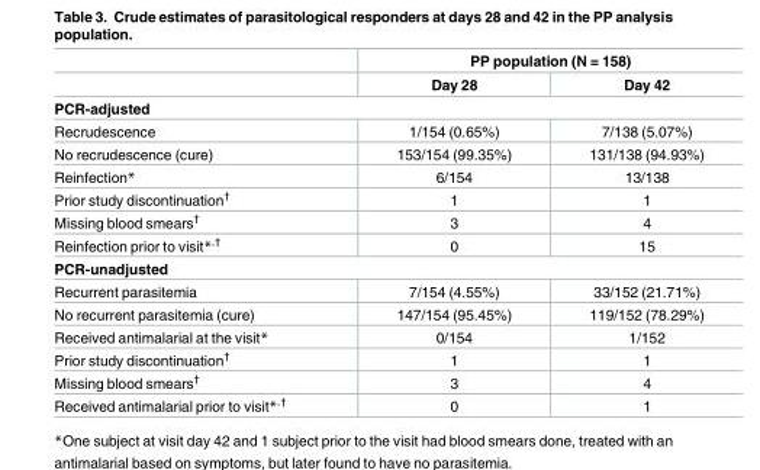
<table><thead><tr><td rowspan="2"></td><td colspan="2">PP population (N = 158)</td></tr><tr><td>Day 28</td><td>Day 42</td></tr></thead><tbody><tr><td colspan="3">PCR-adjusted</td></tr><tr><td>Recrudescence</td><td>1/154 (0.65%)</td><td>7/138 (5.07%)</td></tr><tr><td>No recrudescence (cure)</td><td>153/154 (99.35%)</td><td>131/138 (94.93%)</td></tr><tr><td>Reinfection*</td><td>6/154</td><td>13/138</td></tr><tr><td>Prior study discontinuation<sup>†</sup></td><td>1</td><td>1</td></tr><tr><td>Missing blood smears<sup>†</sup></td><td>3</td><td>4</td></tr><tr><td>Reinfection prior to visit*<sup>,†</sup></td><td>0</td><td>15</td></tr><tr><td colspan="3">PCR-unadjusted</td></tr><tr><td>Recurrent parasitemia</td><td>7/154 (4.55%)</td><td>33/152 (21.71%)</td></tr><tr><td>No recurrent parasitemia (cure)</td><td>147/154 (95.45%)</td><td>119/152 (78.29%)</td></tr><tr><td>Received antimalarial at the visit*</td><td>0/154</td><td>1/152</td></tr><tr><td>Prior study discontinuation<sup>†</sup></td><td>1</td><td>1</td></tr><tr><td>Missing blood smears<sup>†</sup></td><td>3</td><td>4</td></tr><tr><td>Received antimalarial prior to visit*<sup>,†</sup></td><td>0</td><td>1</td></tr></tbody></table>